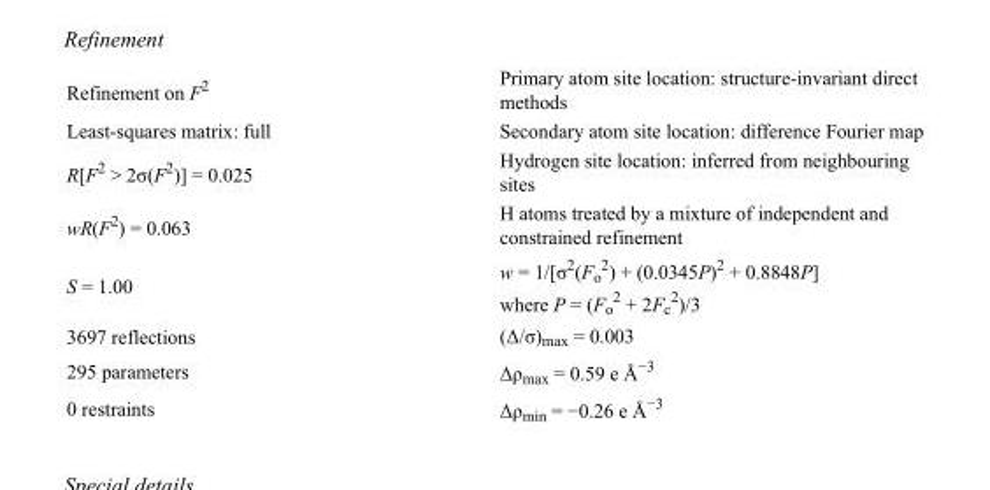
<table><tbody><tr><td>Refinement on F<sup>2</sup></td><td>Primary atom site location: structure-invariant direct methods</td></tr><tr><td>Least-squares matrix: full</td><td>Secondary atom site location: difference Fourier map</td></tr><tr><td>R[F<sup>2</sup> &gt; 2σ(F<sup>2</sup>)] = 0.025</td><td>Hydrogen site location: inferred from neighbouring sites</td></tr><tr><td>wR(F<sup>2</sup>) = 0.063</td><td>H atoms treated by a mixture of independent and constrained refinement</td></tr><tr><td>S = 1.00</td><td>w = 1/[σ<sup>2</sup>(F<sub>o</sub> <sup>2</sup>) + (0.0345P)<sup>2</sup> + 0.8848P] where P = (F<sub>o</sub> <sup>2</sup> + 2F<sub>c</sub> <sup>2</sup>)/3</td></tr><tr><td>3697 reflections</td><td>(Δ/σ)<sub>max</sub> = 0.003</td></tr><tr><td>295 parameters</td><td>Δρ<sub>max</sub> = 0.59 e Å<sup>−3</sup></td></tr><tr><td>0 restraints</td><td>Δρ<sub>min</sub> = −0.26 e Å<sup>−3</sup></td></tr></tbody></table>